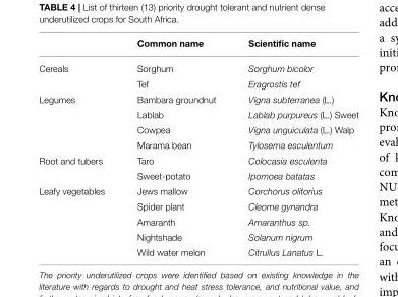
<table><thead><tr><td></td><td>Common name</td><td>Scientific name</td></tr></thead><tbody><tr><td rowspan="2">Cereals</td><td>Sorghum</td><td>Sorghum bicolor</td></tr><tr><td>Tef</td><td>Eragrostis tef</td></tr><tr><td rowspan="4">Legumes</td><td>Bambara groundnut</td><td>Vigna subterranea (L.)</td></tr><tr><td>Lablab</td><td>Lablab purpureus (L.) Sweet</td></tr><tr><td>Cowpea</td><td>Vigna unguiculata (L.) Walp</td></tr><tr><td>Marama bean</td><td>Tylosema esculentum</td></tr><tr><td rowspan="2">Root and tubers</td><td>Taro</td><td>Colocasia esculenta</td></tr><tr><td>Sweet-potato</td><td>Ipomoea batatas</td></tr><tr><td rowspan="5">Leafy vegetables</td><td>Jews mallow</td><td>Corchorus olitorius</td></tr><tr><td>Spider plant</td><td>Cleome gynandra</td></tr><tr><td>Amaranth</td><td>Amaranthus sp.</td></tr><tr><td>Nightshade</td><td>Solanum nigrum</td></tr><tr><td>Wild water melon</td><td>Citrullus Lanatus L.</td></tr></tbody></table>